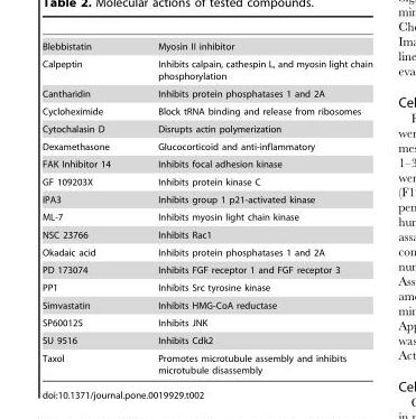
<table><tbody><tr><td>Blebbistatin</td><td>Myosin II inhibitor</td></tr><tr><td>Calpeptin</td><td>Inhibits calpain, cathespin L, and myosin light chain phosphorylation</td></tr><tr><td>Cantharidin</td><td>Inhibits protein phosphatases 1 and 2A</td></tr><tr><td>Cycloheximide</td><td>Block tRNA binding and release from ribosomes</td></tr><tr><td>Cytochalasin D</td><td>Disrupts actin polymerization</td></tr><tr><td>Dexamethasone</td><td>Glucocorticoid and anti-inflammatory</td></tr><tr><td>FAK Inhibitor 14</td><td>Inhibits focal adhesion kinase</td></tr><tr><td>GF 109203X</td><td>Inhibits protein kinase C</td></tr><tr><td>IPA3</td><td>Inhibits group 1 p21-activated kinase</td></tr><tr><td>ML-7</td><td>Inhibits myosin light chain kinase</td></tr><tr><td>NSC 23766</td><td>Inhibits Rac1</td></tr><tr><td>Okadaic acid</td><td>Inhibits protein phosphatases 1 and 2A</td></tr><tr><td>PD 173074</td><td>Inhibits FGF receptor 1 and FGF receptor 3</td></tr><tr><td>PP1</td><td>Inhibits Src tyrosine kinase</td></tr><tr><td>Simvastatin</td><td>Inhibits HMG-CoA reductase</td></tr><tr><td>SP600125</td><td>Inhibits JNK</td></tr><tr><td>SU 9516</td><td>Inhibits Cdk2</td></tr><tr><td>Taxol</td><td>Promotes microtubule assembly and inhibits microtubule disassembly</td></tr></tbody></table>